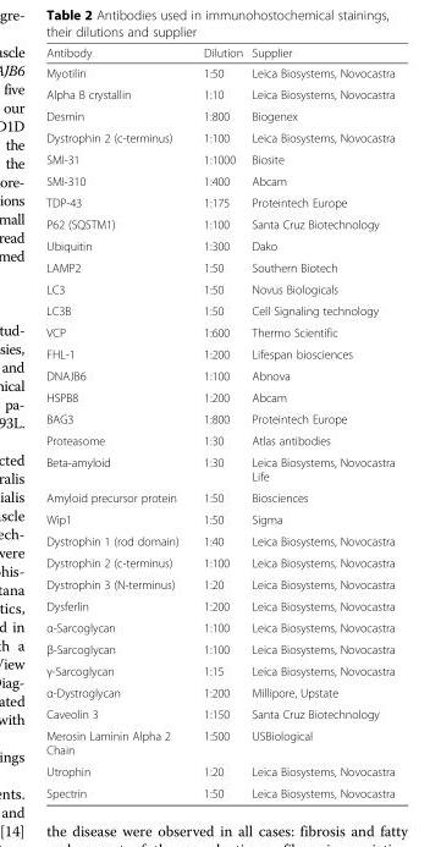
<table><thead><tr><td>Antibody</td><td>Dilution</td><td>Supplier</td></tr></thead><tbody><tr><td>Myotilin</td><td>1:50</td><td>Leica Biosystems, Novocastra</td></tr><tr><td>Alpha B crystallin</td><td>1:10</td><td>Leica Biosystems, Novocastra</td></tr><tr><td>Desmin</td><td>1:800</td><td>Biogenex</td></tr><tr><td>Dystrophin 2 (c-terminus)</td><td>1:100</td><td>Leica Biosystems, Novocastra</td></tr><tr><td>SMI-31</td><td>1:1000</td><td>Biosite</td></tr><tr><td>SMI-310</td><td>1:400</td><td>Abcam</td></tr><tr><td>TDP-43</td><td>1:175</td><td>Proteintech Europe</td></tr><tr><td>P62 (SQSTM1)</td><td>1:100</td><td>Santa Cruz Biotechnology</td></tr><tr><td>Ubiquitin</td><td>1:300</td><td>Dako</td></tr><tr><td>LAMP2</td><td>1:50</td><td>Southern Biotech</td></tr><tr><td>LC3</td><td>1:50</td><td>Novus Biologicals</td></tr><tr><td>LC3B</td><td>1:50</td><td>Cell Signaling technology</td></tr><tr><td>VCP</td><td>1:600</td><td>Thermo Scientific</td></tr><tr><td>FHL-1</td><td>1:200</td><td>Lifespan biosciences</td></tr><tr><td>DNAJB6</td><td>1:100</td><td>Abnova</td></tr><tr><td>HSPB8</td><td>1:200</td><td>Abcam</td></tr><tr><td>BAG3</td><td>1:800</td><td>Proteintech Europe</td></tr><tr><td>Proteasome</td><td>1:30</td><td>Atlas antibodies</td></tr><tr><td>Beta-amyloid</td><td>1:30</td><td>Leica Biosystems, Novocastra Life</td></tr><tr><td>Amyloid precursor protein</td><td>1:50</td><td>Biosciences</td></tr><tr><td>Wip1</td><td>1:50</td><td>Sigma</td></tr><tr><td>Dystrophin 1 (rod domain)</td><td>1:40</td><td>Leica Biosystems, Novocastra</td></tr><tr><td>Dystrophin 2 (c-terminus)</td><td>1:100</td><td>Leica Biosystems, Novocastra</td></tr><tr><td>Dystrophin 3 (N-terminus)</td><td>1:20</td><td>Leica Biosystems, Novocastra</td></tr><tr><td>Dysferlin</td><td>1:200</td><td>Leica Biosystems, Novocastra</td></tr><tr><td>α-Sarcoglycan</td><td>1:100</td><td>Leica Biosystems, Novocastra</td></tr><tr><td>β-Sarcoglycan</td><td>1:100</td><td>Leica Biosystems, Novocastra</td></tr><tr><td>γ-Sarcoglycan</td><td>1:15</td><td>Leica Biosystems, Novocastra</td></tr><tr><td>α-Dystroglycan</td><td>1:200</td><td>Millipore, Upstate</td></tr><tr><td>Caveolin 3</td><td>1:150</td><td>Santa Cruz Biotechnology</td></tr><tr><td>Merosin Laminin Alpha 2 Chain</td><td>1:500</td><td>USBiological</td></tr><tr><td>Utrophin</td><td>1:20</td><td>Leica Biosystems, Novocastra</td></tr><tr><td>Spectrin</td><td>1:50</td><td>Leica Biosystems, Novocastra</td></tr></tbody></table>